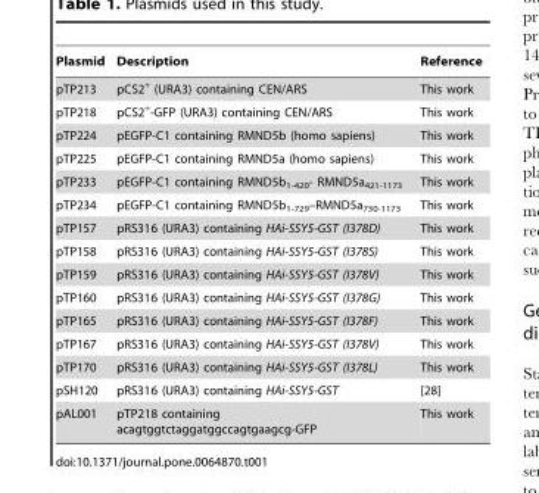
<table><thead><tr><td>Plasmid</td><td>Description</td><td>Reference</td></tr></thead><tbody><tr><td>pTP213</td><td>pCS2<sup>+</sup> (URA3) containing CEN/ARS</td><td>This work</td></tr><tr><td>pTP218</td><td>pCS2<sup>+</sup>-GFP (URA3) containing CEN/ARS</td><td>This work</td></tr><tr><td>pTP224</td><td>pEGFP-C1 containing RMND5b (homo sapiens)</td><td>This work</td></tr><tr><td>pTP225</td><td>pEGFP-C1 containing RMND5a (homo sapiens)</td><td>This work</td></tr><tr><td>pTP233</td><td>pEGFP-C1 containing RMND5b<sub>1-420</sub>- RMND5a<sub>421-1173</sub></td><td>This work</td></tr><tr><td>pTP234</td><td>pEGFP-C1 containing RMND5b<sub>1-729</sub>–RMND5a<sub>730-1173</sub></td><td>This work</td></tr><tr><td>pTP157</td><td>pRS316 (URA3) containing HAi-SSY5-GST (I378D)</td><td>This work</td></tr><tr><td>pTP158</td><td>pRS316 (URA3) containing HAi-SSY5-GST (I378S)</td><td>This work</td></tr><tr><td>pTP159</td><td>pRS316 (URA3) containing HAi-SSY5-GST (I378V)</td><td>This work</td></tr><tr><td>pTP160</td><td>pRS316 (URA3) containing HAi-SSY5-GST (I378G)</td><td>This work</td></tr><tr><td>pTP165</td><td>pRS316 (URA3) containing HAi-SSY5-GST (I378F)</td><td>This work</td></tr><tr><td>pTP167</td><td>pRS316 (URA3) containing HAi-SSY5-GST (I378V)</td><td>This work</td></tr><tr><td>pTP170</td><td>pRS316 (URA3) containing HAi-SSY5-GST (I378L)</td><td>This work</td></tr><tr><td>pSH120</td><td>pRS316 (URA3) containing HAi-SSY5-GST</td><td>[28]</td></tr><tr><td>pAL001</td><td>pTP218 containing acagtggtctaggatggccagtgaagcg-GFP</td><td>This work</td></tr></tbody></table>